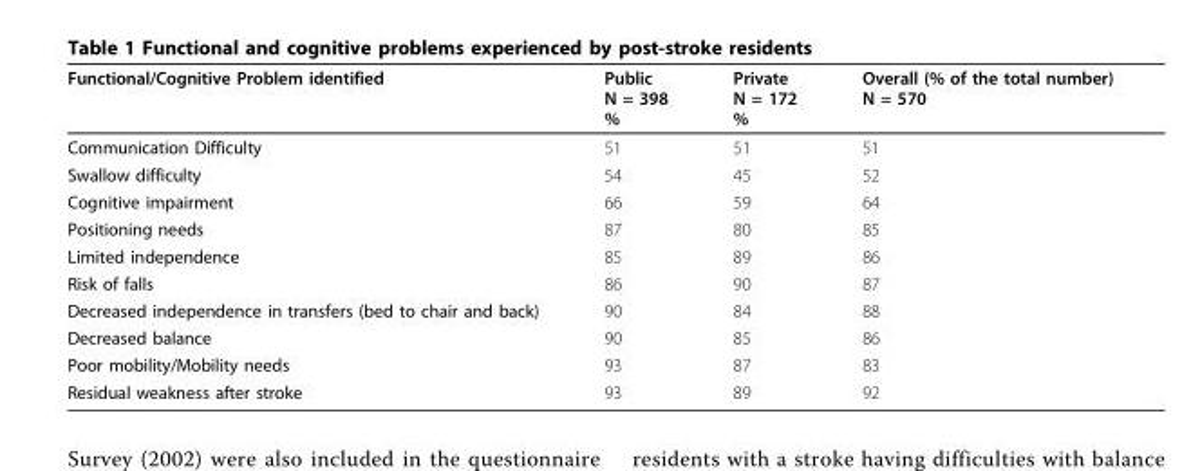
<table><thead><tr><td>Functional/Cognitive Problem identified</td><td>Public N = 398 %</td><td>Private N = 172 %</td><td>Overall (% of the total number) N = 570</td></tr></thead><tbody><tr><td>Communication Difficulty</td><td>51</td><td>51</td><td>51</td></tr><tr><td>Swallow difficulty</td><td>54</td><td>45</td><td>52</td></tr><tr><td>Cognitive impairment</td><td>66</td><td>59</td><td>64</td></tr><tr><td>Positioning needs</td><td>87</td><td>80</td><td>85</td></tr><tr><td>Limited independence</td><td>85</td><td>89</td><td>86</td></tr><tr><td>Risk of falls</td><td>86</td><td>90</td><td>87</td></tr><tr><td>Decreased independence in transfers (bed to chair and back)</td><td>90</td><td>84</td><td>88</td></tr><tr><td>Decreased balance</td><td>90</td><td>85</td><td>86</td></tr><tr><td>Poor mobility/Mobility needs</td><td>93</td><td>87</td><td>83</td></tr><tr><td>Residual weakness after stroke</td><td>93</td><td>89</td><td>92</td></tr></tbody></table>